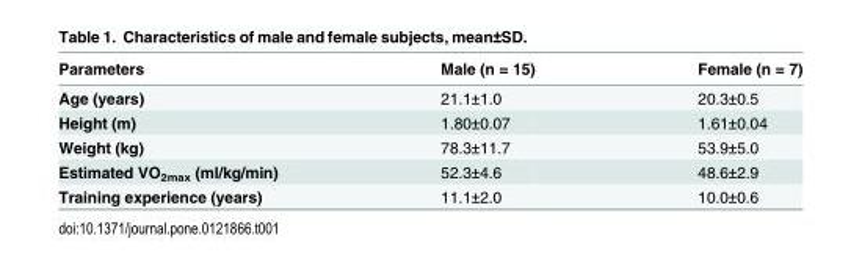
<table><thead><tr><td>Parameters</td><td>Male (n = 15)</td><td>Female (n = 7)</td></tr></thead><tbody><tr><td>Age (years)</td><td>21.1±1.0</td><td>20.3±0.5</td></tr><tr><td>Height (m)</td><td>1.80±0.07</td><td>1.61±0.04</td></tr><tr><td>Weight (kg)</td><td>78.3±11.7</td><td>53.9±5.0</td></tr><tr><td>Estimated VO<sub>2max</sub> (ml/kg/min)</td><td>52.3±4.6</td><td>48.6±2.9</td></tr><tr><td>Training experience (years)</td><td>11.1±2.0</td><td>10.0±0.6</td></tr></tbody></table>